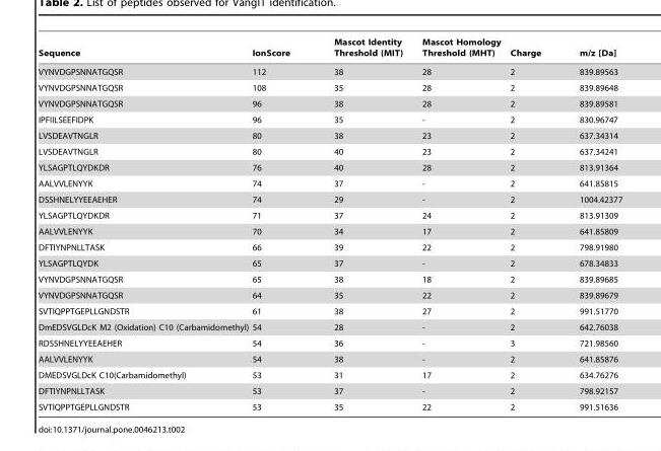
<table><thead><tr><td>Sequence</td><td>IonScore</td><td>Mascot Identity Threshold (MIT)</td><td>Mascot Homology Threshold (MHT)</td><td>Charge</td><td>m/z [Da]</td></tr></thead><tbody><tr><td>VYNVDGPSNNATGQSR</td><td>112</td><td>38</td><td>28</td><td>2</td><td>839.89563</td></tr><tr><td>VYNVDGPSNNATGQSR</td><td>108</td><td>35</td><td>28</td><td>2</td><td>839.89648</td></tr><tr><td>VYNVDGPSNNATGQSR</td><td>96</td><td>38</td><td>28</td><td>2</td><td>839.89581</td></tr><tr><td>IPFIILSEEFIDPK</td><td>96</td><td>35</td><td>-</td><td>2</td><td>830.96747</td></tr><tr><td>LVSDEAVTNGLR</td><td>80</td><td>38</td><td>23</td><td>2</td><td>637.34314</td></tr><tr><td>LVSDEAVTNGLR</td><td>80</td><td>40</td><td>23</td><td>2</td><td>637.34241</td></tr><tr><td>YLSAGPTLQYDKDR</td><td>76</td><td>40</td><td>28</td><td>2</td><td>813.91364</td></tr><tr><td>AALVVLENYYK</td><td>74</td><td>37</td><td>-</td><td>2</td><td>641.85815</td></tr><tr><td>DSSHNELYYEEAEHER</td><td>74</td><td>29</td><td>-</td><td>2</td><td>1004.42377</td></tr><tr><td>YLSAGPTLQYDKDR</td><td>71</td><td>37</td><td>24</td><td>2</td><td>813.91309</td></tr><tr><td>AALVVLENYYK</td><td>70</td><td>34</td><td>17</td><td>2</td><td>641.85809</td></tr><tr><td>DFTIYNPNLLTASK</td><td>66</td><td>39</td><td>22</td><td>2</td><td>798.91980</td></tr><tr><td>YLSAGPTLQYDK</td><td>65</td><td>37</td><td>-</td><td>2</td><td>678.34833</td></tr><tr><td>VYNVDGPSNNATGQSR</td><td>65</td><td>38</td><td>18</td><td>2</td><td>839.89685</td></tr><tr><td>VYNVDGPSNNATGQSR</td><td>64</td><td>35</td><td>22</td><td>2</td><td>839.89679</td></tr><tr><td>SVTIQPPTGEPLLGNDSTR</td><td>61</td><td>38</td><td>27</td><td>2</td><td>991.51770</td></tr><tr><td>DmEDSVGLDcK M2 (Oxidation) C10 (Carbamidomethyl)</td><td>54</td><td>28</td><td>-</td><td>2</td><td>642.76038</td></tr><tr><td>RDSSHNELYYEEAEHER</td><td>54</td><td>36</td><td>-</td><td>3</td><td>721.98560</td></tr><tr><td>AALVVLENYYK</td><td>54</td><td>38</td><td>-</td><td>2</td><td>641.85876</td></tr><tr><td>DMEDSVGLDcK C10(Carbamidomethyl)</td><td>53</td><td>31</td><td>17</td><td>2</td><td>634.76276</td></tr><tr><td>DFTIYNPNLLTASK</td><td>53</td><td>37</td><td>-</td><td>2</td><td>798.92157</td></tr><tr><td>SVTIQPPTGEPLLGNDSTR</td><td>53</td><td>35</td><td>22</td><td>2</td><td>991.51636</td></tr></tbody></table>